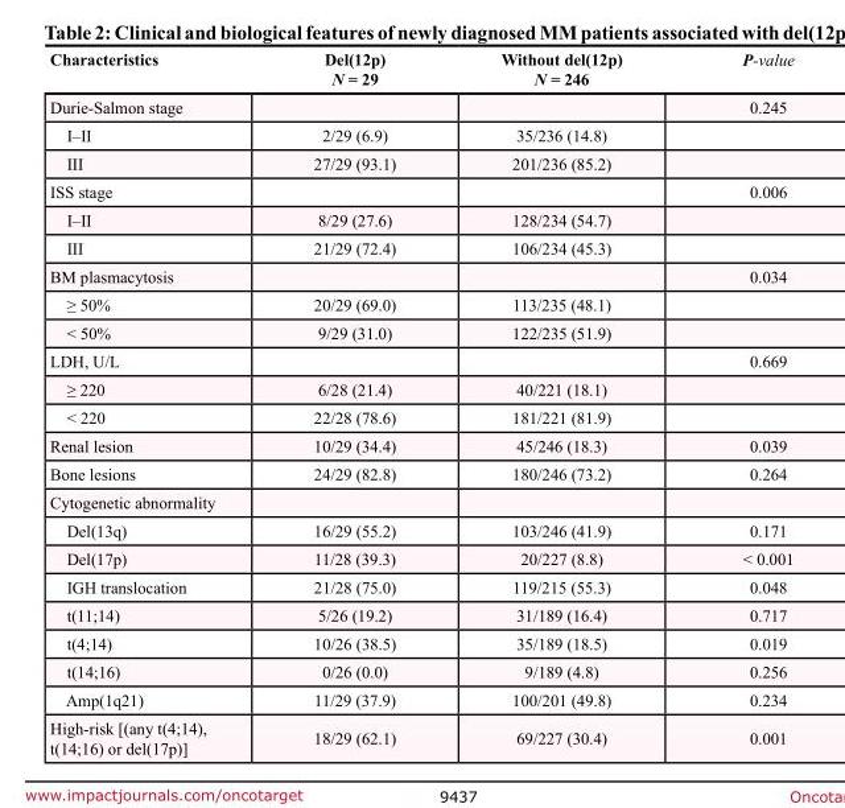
<table><thead><tr><td>Characteristics</td><td>Del(12p) N = 29</td><td>Without del(12p) N = 246</td><td>P-value</td></tr></thead><tbody><tr><td>Durie-Salmon stage</td><td></td><td></td><td>0.245</td></tr><tr><td>I–II</td><td>2/29 (6.9)</td><td>35/236 (14.8)</td><td></td></tr><tr><td>III</td><td>27/29 (93.1)</td><td>201/236 (85.2)</td><td></td></tr><tr><td>ISS stage</td><td></td><td></td><td>0.006</td></tr><tr><td>I–II</td><td>8/29 (27.6)</td><td>128/234 (54.7)</td><td></td></tr><tr><td>III</td><td>21/29 (72.4)</td><td>106/234 (45.3)</td><td></td></tr><tr><td>BM plasmacytosis</td><td></td><td></td><td>0.034</td></tr><tr><td>≥ 50%</td><td>20/29 (69.0)</td><td>113/235 (48.1)</td><td></td></tr><tr><td>&lt; 50%</td><td>9/29 (31.0)</td><td>122/235 (51.9)</td><td></td></tr><tr><td>LDH, U/L</td><td></td><td></td><td>0.669</td></tr><tr><td>≥ 220</td><td>6/28 (21.4)</td><td>40/221 (18.1)</td><td></td></tr><tr><td>&lt; 220</td><td>22/28 (78.6)</td><td>181/221 (81.9)</td><td></td></tr><tr><td>Renal lesion</td><td>10/29 (34.4)</td><td>45/246 (18.3)</td><td>0.039</td></tr><tr><td>Bone lesions</td><td>24/29 (82.8)</td><td>180/246 (73.2)</td><td>0.264</td></tr><tr><td colspan="4">Cytogenetic abnormality</td></tr><tr><td>Del(13q)</td><td>16/29 (55.2)</td><td>103/246 (41.9)</td><td>0.171</td></tr><tr><td>Del(17p)</td><td>11/28 (39.3)</td><td>20/227 (8.8)</td><td>&lt; 0.001</td></tr><tr><td>IGH translocation</td><td>21/28 (75.0)</td><td>119/215 (55.3)</td><td>0.048</td></tr><tr><td>t(11;14)</td><td>5/26 (19.2)</td><td>31/189 (16.4)</td><td>0.717</td></tr><tr><td>t(4;14)</td><td>10/26 (38.5)</td><td>35/189 (18.5)</td><td>0.019</td></tr><tr><td>t(14;16)</td><td>0/26 (0.0)</td><td>9/189 (4.8)</td><td>0.256</td></tr><tr><td>Amp(1q21)</td><td>11/29 (37.9)</td><td>100/201 (49.8)</td><td>0.234</td></tr><tr><td>High-risk [(any t(4;14), t(14;16) or del(17p)]</td><td>18/29 (62.1)</td><td>69/227 (30.4)</td><td>0.001</td></tr></tbody></table>